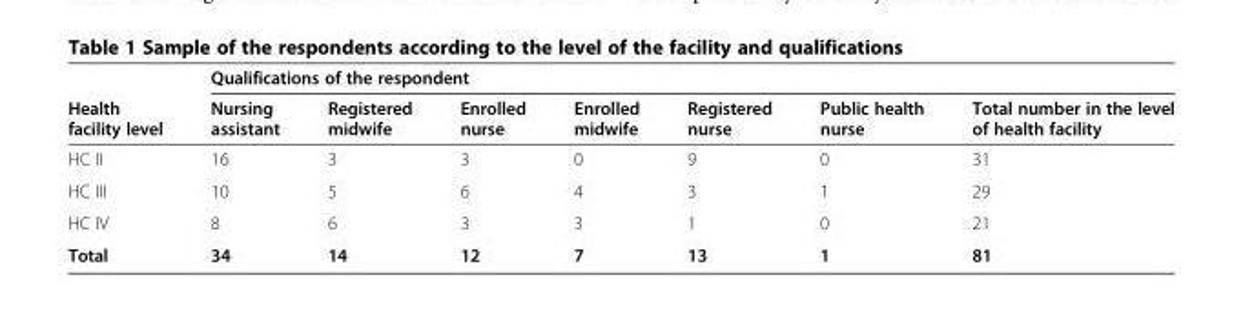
<table><thead><tr><td rowspan="2">Health facility level</td><td colspan="7">Qualifications of the respondent</td></tr><tr><td>Nursing assistant</td><td>Registered midwife</td><td>Enrolled nurse</td><td>Enrolled midwife</td><td>Registered nurse</td><td>Public health nurse</td><td>Total number in the level of health facility</td></tr></thead><tbody><tr><td>HC II</td><td>16</td><td>3</td><td>3</td><td>0</td><td>9</td><td>0</td><td>31</td></tr><tr><td>HC III</td><td>10</td><td>5</td><td>6</td><td>4</td><td>3</td><td>1</td><td>29</td></tr><tr><td>HC IV</td><td>8</td><td>6</td><td>3</td><td>3</td><td>1</td><td>0</td><td>21</td></tr><tr><td>Total</td><td>34</td><td>14</td><td>12</td><td>7</td><td>13</td><td>1</td><td>81</td></tr></tbody></table>